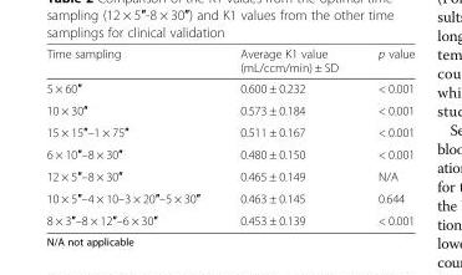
<table><thead><tr><td>Time sampling</td><td>Average K1 value (mL/ccm/min) ± SD</td><td>p value</td></tr></thead><tbody><tr><td>5 × 60″</td><td>0.600 ± 0.232</td><td>&lt; 0.001</td></tr><tr><td>10 × 30″</td><td>0.573 ± 0.184</td><td>&lt; 0.001</td></tr><tr><td>15 × 15″–1 × 75″</td><td>0.511 ± 0.167</td><td>&lt; 0.001</td></tr><tr><td>6 × 10″–8 × 30″</td><td>0.480 ± 0.150</td><td>&lt; 0.001</td></tr><tr><td>12 × 5″–8 × 30″</td><td>0.465 ± 0.149</td><td>N/A</td></tr><tr><td>10 × 5″–4 × 10–3 × 20″–5 × 30″</td><td>0.463 ± 0.145</td><td>0.644</td></tr><tr><td>8 × 3″–8 × 12″–6 × 30″</td><td>0.453 ± 0.139</td><td>&lt; 0.001</td></tr></tbody></table>